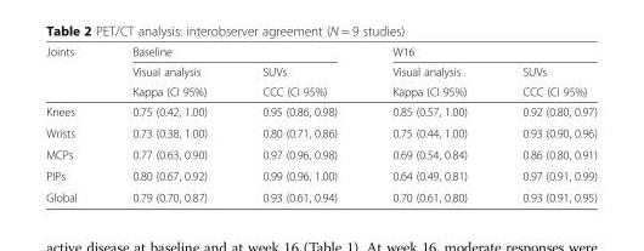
<table><thead><tr><td rowspan="3">Joints</td><td colspan="2">Baseline</td><td colspan="2">W16</td></tr><tr><td rowspan="2">Visual analysis Kappa (CI 95%)</td><td rowspan="2">SUVs CCC (CI 95%)</td><td rowspan="2">Visual analysis Kappa (CI 95%)</td><td rowspan="2">SUVs CCC (CI 95%)</td></tr><tr></tr></thead><tbody><tr><td>Knees</td><td>0.75 (0.42, 1.00)</td><td>0.95 (0.86, 0.98)</td><td>0.85 (0.57, 1.00)</td><td>0.92 (0.80, 0.97)</td></tr><tr><td>Wrists</td><td>0.73 (0.38, 1.00)</td><td>0.80 (0.71, 0.86)</td><td>0.75 (0.44, 1.00)</td><td>0.93 (0.90, 0.96)</td></tr><tr><td>MCPs</td><td>0.77 (0.63, 0.90)</td><td>0.97 (0.96, 0.98)</td><td>0.69 (0.54, 0.84)</td><td>0.86 (0.80, 0.91)</td></tr><tr><td>PIPs</td><td>0.80 (0.67, 0.92)</td><td>0.99 (0.96, 1.00)</td><td>0.64 (0.49, 0.81)</td><td>0.97 (0.91, 0.99)</td></tr><tr><td>Global</td><td>0.79 (0.70, 0.87)</td><td>0.93 (0.61, 0.94)</td><td>0.70 (0.61, 0.80)</td><td>0.93 (0.91, 0.95)</td></tr></tbody></table>